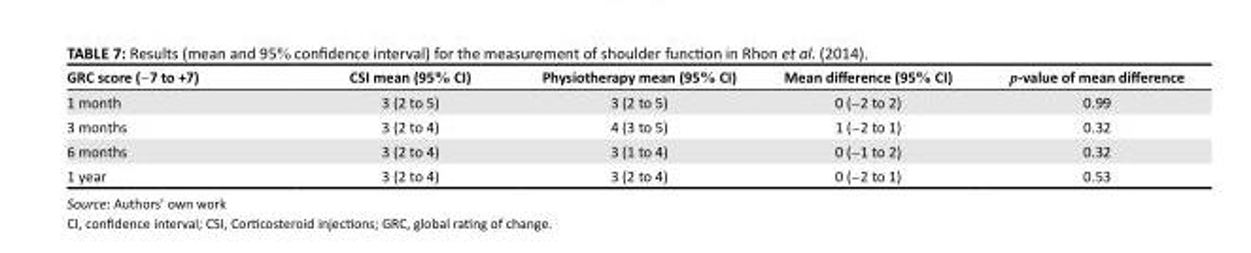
<table><thead><tr><td>GRC score (−7 to +7)</td><td>CSI mean (95% CI)</td><td>Physiotherapy mean (95% CI)</td><td>Mean difference (95% CI)</td><td>p-value of mean difference</td></tr></thead><tbody><tr><td>1 month</td><td>3 (2 to 5)</td><td>3 (2 to 5)</td><td>0 (−2 to 2)</td><td>0.99</td></tr><tr><td>3 months</td><td>3 (2 to 4)</td><td>4 (3 to 5)</td><td>1 (−2 to 1)</td><td>0.32</td></tr><tr><td>6 months</td><td>3 (2 to 4)</td><td>3 (1 to 4)</td><td>0 (−1 to 2)</td><td>0.32</td></tr><tr><td>1 year</td><td>3 (2 to 4)</td><td>3 (2 to 4)</td><td>0 (−2 to 1)</td><td>0.53</td></tr></tbody></table>